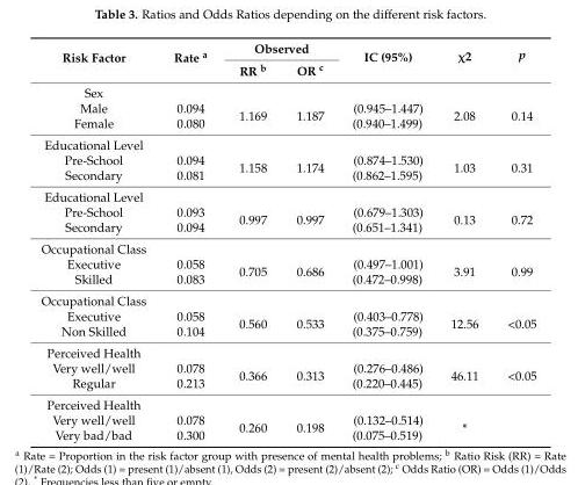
<table><thead><tr><td rowspan="2">Risk Factor</td><td rowspan="2">Rate <sup>a</sup></td><td colspan="2">Observed</td><td rowspan="2">IC (95%)</td><td rowspan="2">χ2</td><td rowspan="2">p</td></tr><tr><td>RR <sup>b</sup></td><td>OR <sup>c</sup></td></tr></thead><tbody><tr><td colspan="7">Sex</td></tr><tr><td>Male Female</td><td>0.094 0.080</td><td>1.169</td><td>1.187</td><td>(0.945–1.447) (0.940–1.499)</td><td>2.08</td><td>0.14</td></tr><tr><td colspan="7">Educational Level</td></tr><tr><td>Pre-School Secondary</td><td>0.094 0.081</td><td>1.158</td><td>1.174</td><td>(0.874–1.530) (0.862–1.595)</td><td>1.03</td><td>0.31</td></tr><tr><td colspan="7">Educational Level</td></tr><tr><td>Pre-School Secondary</td><td>0.093 0.094</td><td>0.997</td><td>0.997</td><td>(0.679–1.303) (0.651–1.341)</td><td>0.13</td><td>0.72</td></tr><tr><td colspan="7">Occupational Class</td></tr><tr><td>Executive Skilled</td><td>0.058 0.083</td><td>0.705</td><td>0.686</td><td>(0.497–1.001) (0.472–0.998)</td><td>3.91</td><td>0.99</td></tr><tr><td colspan="7">Occupational Class</td></tr><tr><td>Executive Non Skilled</td><td>0.058 0.104</td><td>0.560</td><td>0.533</td><td>(0.403–0.778) (0.375–0.759)</td><td>12.56</td><td>&lt;0.05</td></tr><tr><td colspan="7">Perceived Health</td></tr><tr><td>Very well/well Regular</td><td>0.078 0.213</td><td>0.366</td><td>0.313</td><td>(0.276–0.486) (0.220–0.445)</td><td>46.11</td><td>&lt;0.05</td></tr><tr><td colspan="7">Perceived Health</td></tr><tr><td>Very well/well Very bad/bad</td><td>0.078 0.300</td><td>0.260</td><td>0.198</td><td>(0.132–0.514) (0.075–0.519)</td><td>*</td><td></td></tr></tbody></table>